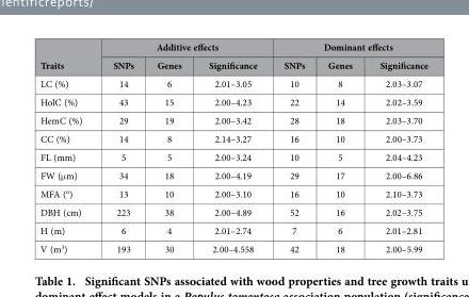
<table><thead><tr><td rowspan="2">Traits</td><td colspan="3">Additive effects</td><td colspan="3">Dominant effects</td></tr><tr><td>SNPs</td><td>Genes</td><td>Significance</td><td>SNPs</td><td>Genes</td><td>Significance</td></tr></thead><tbody><tr><td>LC (%)</td><td>14</td><td>6</td><td>2.01–3.05</td><td>10</td><td>8</td><td>2.03–3.07</td></tr><tr><td>HolC (%)</td><td>43</td><td>15</td><td>2.00–4.23</td><td>22</td><td>14</td><td>2.02–3.59</td></tr><tr><td>HemC (%)</td><td>29</td><td>19</td><td>2.00–3.42</td><td>28</td><td>18</td><td>2.03–3.70</td></tr><tr><td>CC (%)</td><td>14</td><td>8</td><td>2.14–3.27</td><td>16</td><td>10</td><td>2.00–3.73</td></tr><tr><td>FL (mm)</td><td>5</td><td>5</td><td>2.00–3.24</td><td>10</td><td>5</td><td>2.04–4.23</td></tr><tr><td>FW (μ m)</td><td>34</td><td>18</td><td>2.00–4.19</td><td>29</td><td>17</td><td>2.00–6.86</td></tr><tr><td>MFA (°)</td><td>13</td><td>10</td><td>2.00–3.10</td><td>16</td><td>10</td><td>2.10–3.73</td></tr><tr><td>DBH (cm)</td><td>223</td><td>38</td><td>2.00–4.89</td><td>52</td><td>16</td><td>2.02–3.75</td></tr><tr><td>H (m)</td><td>6</td><td>4</td><td>2.01–2.74</td><td>7</td><td>6</td><td>2.01–2.81</td></tr><tr><td>V (m<sup>3</sup>)</td><td>193</td><td>30</td><td>2.00–4.558</td><td>42</td><td>18</td><td>2.00–5.99</td></tr></tbody></table>